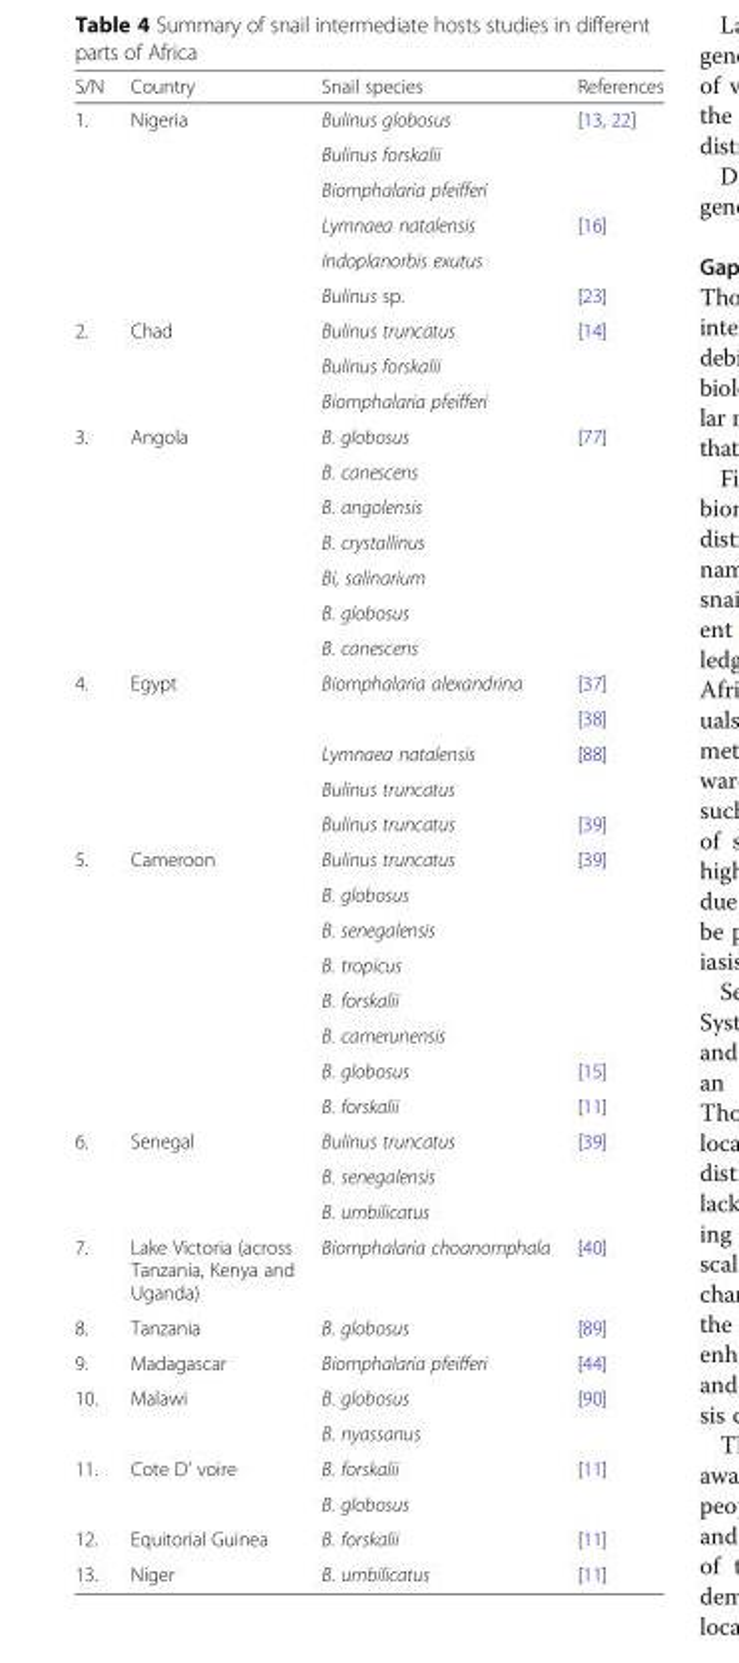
<table><thead><tr><td>S/N</td><td>Country</td><td>Snail species</td><td>References</td></tr></thead><tbody><tr><td rowspan="6">1.</td><td rowspan="6">Nigeria</td><td>Bulinus globosus</td><td rowspan="3">[13, 22]</td></tr><tr><td>Bulinus forskalii</td></tr><tr><td>Biomphalaria pfeifferi</td></tr><tr><td>Lymnaea natalensis</td><td rowspan="2">[16]</td></tr><tr><td>Indoplanorbis exutus</td></tr><tr><td>Bulinus sp.</td><td>[23]</td></tr><tr><td rowspan="3">2.</td><td rowspan="3">Chad</td><td>Bulinus truncatus</td><td rowspan="3">[14]</td></tr><tr><td>Bulinus forskalii</td></tr><tr><td>Biomphalaria pfeifferi</td></tr><tr><td rowspan="7">3.</td><td rowspan="7">Angola</td><td>B. globosus</td><td rowspan="7">[77]</td></tr><tr><td>B. canescens</td></tr><tr><td>B. angolensis</td></tr><tr><td>B. crystallinus</td></tr><tr><td>Bi, salinarium</td></tr><tr><td>B. globosus</td></tr><tr><td>B. canescens</td></tr><tr><td rowspan="5">4.</td><td rowspan="5">Egypt</td><td rowspan="2">Biomphalaria alexandrina</td><td>[37]</td></tr><tr><td>[38]</td></tr><tr><td>Lymnaea natalensis</td><td rowspan="2">[88]</td></tr><tr><td>Bulinus truncatus</td></tr><tr><td>Bulinus truncatus</td><td>[39]</td></tr><tr><td rowspan="8">5.</td><td rowspan="8">Cameroon</td><td>Bulinus truncatus</td><td rowspan="6">[39]</td></tr><tr><td>B. globosus</td></tr><tr><td>B. senegalensis</td></tr><tr><td>B. tropicus</td></tr><tr><td>B. forskalii</td></tr><tr><td>B. camerunensis</td></tr><tr><td>B. globosus</td><td>[15]</td></tr><tr><td>B. forskalii</td><td>[11]</td></tr><tr><td rowspan="3">6.</td><td rowspan="3">Senegal</td><td>Bulinus truncatus</td><td rowspan="3">[39]</td></tr><tr><td>B. senegalensis</td></tr><tr><td>B. umbilicatus</td></tr><tr><td>7.</td><td>Lake Victoria (across Tanzania, Kenya and Uganda)</td><td>Biomphalaria choanomphala</td><td>[40]</td></tr><tr><td>8.</td><td>Tanzania</td><td>B. globosus</td><td>[89]</td></tr><tr><td>9.</td><td>Madagascar</td><td>Biomphalaria pfeifferi</td><td>[44]</td></tr><tr><td rowspan="2">10.</td><td rowspan="2">Malawi</td><td>B. globosus</td><td rowspan="2">[90]</td></tr><tr><td>B. nyassanus</td></tr><tr><td rowspan="2">11.</td><td rowspan="2">Cote D’ voire</td><td>B. forskalii</td><td rowspan="2">[11]</td></tr><tr><td>B. globosus</td></tr><tr><td>12.</td><td>Equitorial Guinea</td><td>B. forskalii</td><td>[11]</td></tr><tr><td>13.</td><td>Niger</td><td>B. umbilicatus</td><td>[11]</td></tr></tbody></table>